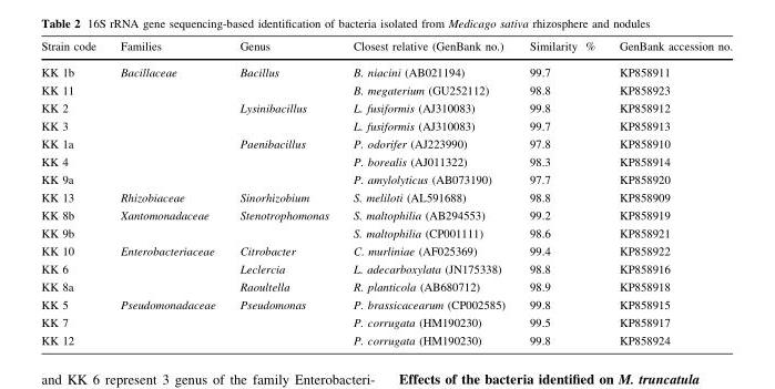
<table><thead><tr><td>Strain code</td><td>Families</td><td>Genus</td><td>Closest relative (GenBank no.)</td><td>Similarity %</td><td>GenBank accession no.</td></tr></thead><tbody><tr><td>KK 1b</td><td rowspan="7">Bacillaceae</td><td rowspan="2">Bacillus</td><td>B. niacini (AB021194)</td><td>99.7</td><td>KP858911</td></tr><tr><td>KK 11</td><td>B. megaterium (GU252112)</td><td>98.8</td><td>KP858923</td></tr><tr><td>KK 2</td><td rowspan="2">Lysinibacillus</td><td>L. fusiformis (AJ310083)</td><td>99.8</td><td>KP858912</td></tr><tr><td>KK 3</td><td>L. fusiformis (AJ310083)</td><td>99.7</td><td>KP858913</td></tr><tr><td>KK 1a</td><td rowspan="3">Paenibacillus</td><td>P. odorifer (AJ223990)</td><td>97.8</td><td>KP858910</td></tr><tr><td>KK 4</td><td>P. borealis (AJ011322)</td><td>98.3</td><td>KP858914</td></tr><tr><td>KK 9a</td><td>P. amylolyticus (AB073190)</td><td>97.7</td><td>KP858920</td></tr><tr><td>KK 13</td><td>Rhizobiaceae</td><td>Sinorhizobium</td><td>S. meliloti (AL591688)</td><td>98.8</td><td>KP858909</td></tr><tr><td>KK 8b</td><td rowspan="2">Xantomonadaceae</td><td rowspan="2">Stenotrophomonas</td><td>S. maltophilia (AB294553)</td><td>99.2</td><td>KP858919</td></tr><tr><td>KK 9b</td><td>S. maltophilia (CP001111)</td><td>98.6</td><td>KP858921</td></tr><tr><td>KK 10</td><td rowspan="3">Enterobacteriaceae</td><td>Citrobacter</td><td>C. murliniae (AF025369)</td><td>99.4</td><td>KP858922</td></tr><tr><td>KK 6</td><td>Leclercia</td><td>L. adecarboxylata (JN175338)</td><td>98.8</td><td>KP858916</td></tr><tr><td>KK 8a</td><td>Raoultella</td><td>R. planticola (AB680712)</td><td>98.9</td><td>KP858918</td></tr><tr><td>KK 5</td><td rowspan="3">Pseudomonadaceae</td><td rowspan="3">Pseudomonas</td><td>P. brassicacearum (CP002585)</td><td>99.8</td><td>KP858915</td></tr><tr><td>KK 7</td><td>P. corrugata (HM190230)</td><td>99.5</td><td>KP858917</td></tr><tr><td>KK 12</td><td>P. corrugata (HM190230)</td><td>99.8</td><td>KP858924</td></tr></tbody></table>